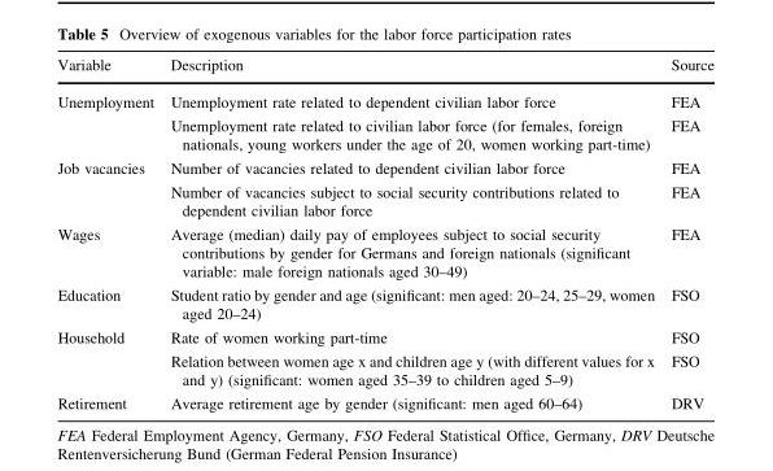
<table><thead><tr><td>Variable</td><td>Description</td><td>Source</td></tr></thead><tbody><tr><td rowspan="2">Unemployment</td><td>Unemployment rate related to dependent civilian labor force</td><td>FEA</td></tr><tr><td>Unemployment rate related to civilian labor force (for females, foreign nationals, young workers under the age of 20, women working part-time)</td><td>FEA</td></tr><tr><td rowspan="2">Job vacancies</td><td>Number of vacancies related to dependent civilian labor force</td><td>FEA</td></tr><tr><td>Number of vacancies subject to social security contributions related to dependent civilian labor force</td><td>FEA</td></tr><tr><td>Wages</td><td>Average (median) daily pay of employees subject to social security contributions by gender for Germans and foreign nationals (significant variable: male foreign nationals aged 30–49)</td><td>FEA</td></tr><tr><td>Education</td><td>Student ratio by gender and age (significant: men aged: 20–24, 25–29, women aged 20–24)</td><td>FSO</td></tr><tr><td rowspan="2">Household</td><td>Rate of women working part-time</td><td>FSO</td></tr><tr><td>Relation between women age x and children age y (with different values for x and y) (significant: women aged 35–39 to children aged 5–9)</td><td>FSO</td></tr><tr><td>Retirement</td><td>Average retirement age by gender (significant: men aged 60–64)</td><td>DRV</td></tr></tbody></table>